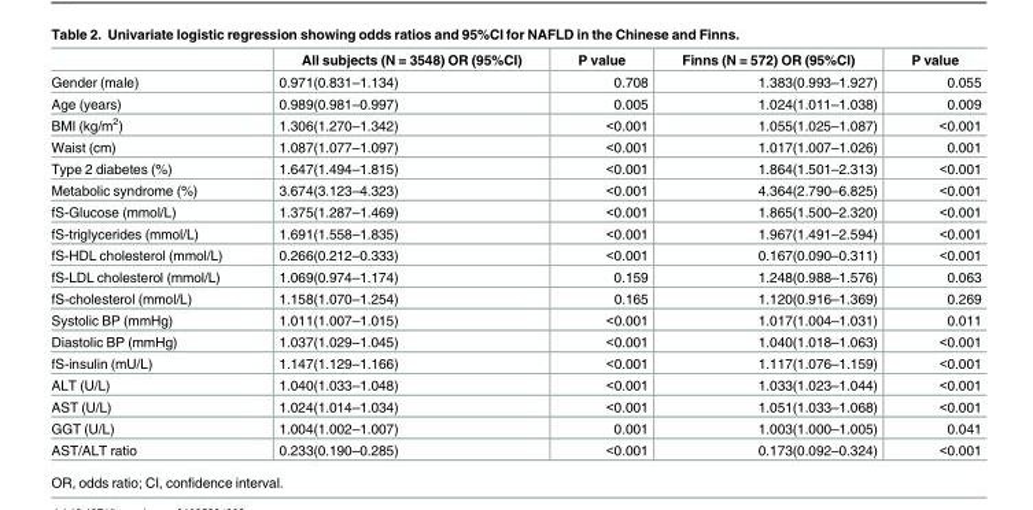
<table><thead><tr><td></td><td>All subjects (N = 3548) OR (95%CI)</td><td>P value</td><td>Finns (N = 572) OR (95%CI)</td><td>P value</td></tr></thead><tbody><tr><td>Gender (male)</td><td>0.971(0.831–1.134)</td><td>0.708</td><td>1.383(0.993–1.927)</td><td>0.055</td></tr><tr><td>Age (years)</td><td>0.989(0.981–0.997)</td><td>0.005</td><td>1.024(1.011–1.038)</td><td>0.009</td></tr><tr><td>BMI (kg/m<sup>2</sup>)</td><td>1.306(1.270–1.342)</td><td>&lt;0.001</td><td>1.055(1.025–1.087)</td><td>&lt;0.001</td></tr><tr><td>Waist (cm)</td><td>1.087(1.077–1.097)</td><td>&lt;0.001</td><td>1.017(1.007–1.026)</td><td>0.001</td></tr><tr><td>Type 2 diabetes (%)</td><td>1.647(1.494–1.815)</td><td>&lt;0.001</td><td>1.864(1.501–2.313)</td><td>&lt;0.001</td></tr><tr><td>Metabolic syndrome (%)</td><td>3.674(3.123–4.323)</td><td>&lt;0.001</td><td>4.364(2.790–6.825)</td><td>&lt;0.001</td></tr><tr><td>fS-Glucose (mmol/L)</td><td>1.375(1.287–1.469)</td><td>&lt;0.001</td><td>1.865(1.500–2.320)</td><td>&lt;0.001</td></tr><tr><td>fS-triglycerides (mmol/L)</td><td>1.691(1.558–1.835)</td><td>&lt;0.001</td><td>1.967(1.491–2.594)</td><td>&lt;0.001</td></tr><tr><td>fS-HDL cholesterol (mmol/L)</td><td>0.266(0.212–0.333)</td><td>&lt;0.001</td><td>0.167(0.090–0.311)</td><td>&lt;0.001</td></tr><tr><td>fS-LDL cholesterol (mmol/L)</td><td>1.069(0.974–1.174)</td><td>0.159</td><td>1.248(0.988–1.576)</td><td>0.063</td></tr><tr><td>fS-cholesterol (mmol/L)</td><td>1.158(1.070–1.254)</td><td>0.165</td><td>1.120(0.916–1.369)</td><td>0.269</td></tr><tr><td>Systolic BP (mmHg)</td><td>1.011(1.007–1.015)</td><td>&lt;0.001</td><td>1.017(1.004–1.031)</td><td>0.011</td></tr><tr><td>Diastolic BP (mmHg)</td><td>1.037(1.029–1.045)</td><td>&lt;0.001</td><td>1.040(1.018–1.063)</td><td>&lt;0.001</td></tr><tr><td>fS-insulin (mU/L)</td><td>1.147(1.129–1.166)</td><td>&lt;0.001</td><td>1.117(1.076–1.159)</td><td>&lt;0.001</td></tr><tr><td>ALT (U/L)</td><td>1.040(1.033–1.048)</td><td>&lt;0.001</td><td>1.033(1.023–1.044)</td><td>&lt;0.001</td></tr><tr><td>AST (U/L)</td><td>1.024(1.014–1.034)</td><td>&lt;0.001</td><td>1.051(1.033–1.068)</td><td>&lt;0.001</td></tr><tr><td>GGT (U/L)</td><td>1.004(1.002–1.007)</td><td>0.001</td><td>1.003(1.000–1.005)</td><td>0.041</td></tr><tr><td>AST/ALT ratio</td><td>0.233(0.190–0.285)</td><td>&lt;0.001</td><td>0.173(0.092–0.324)</td><td>&lt;0.001</td></tr></tbody></table>